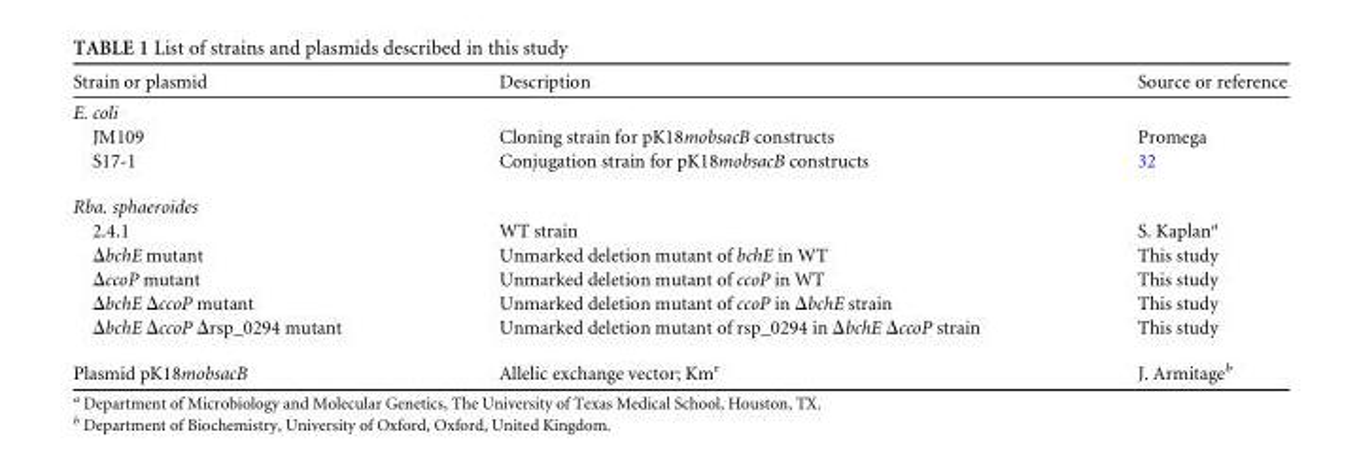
<table><thead><tr><td>Strain or plasmid</td><td>Description</td><td>Source or reference</td></tr></thead><tbody><tr><td colspan="3">E. coli</td></tr><tr><td>JM109</td><td>Cloning strain for pK18mobsacB constructs</td><td>Promega</td></tr><tr><td>S17-1</td><td>Conjugation strain for pK18mobsacB constructs</td><td>32</td></tr><tr><td colspan="3">Rba. sphaeroides</td></tr><tr><td>2.4.1</td><td>WT strain</td><td>S. Kaplan<sup>a</sup></td></tr><tr><td>ΔbchE mutant</td><td>Unmarked deletion mutant of bchE in WT</td><td>This study</td></tr><tr><td>ΔccoP mutant</td><td>Unmarked deletion mutant of ccoP in WT</td><td>This study</td></tr><tr><td>ΔbchE ΔccoP mutant</td><td>Unmarked deletion mutant of ccoP in ΔbchE strain</td><td>This study</td></tr><tr><td>ΔbchE ΔccoP Δrsp_0294 mutant</td><td>Unmarked deletion mutant of rsp_0294 in ΔbchE ΔccoP strain</td><td>This study</td></tr><tr><td>Plasmid pK18mobsacB</td><td>Allelic exchange vector; Km<sup>r</sup></td><td>J. Armitage<sup>b</sup></td></tr></tbody></table>